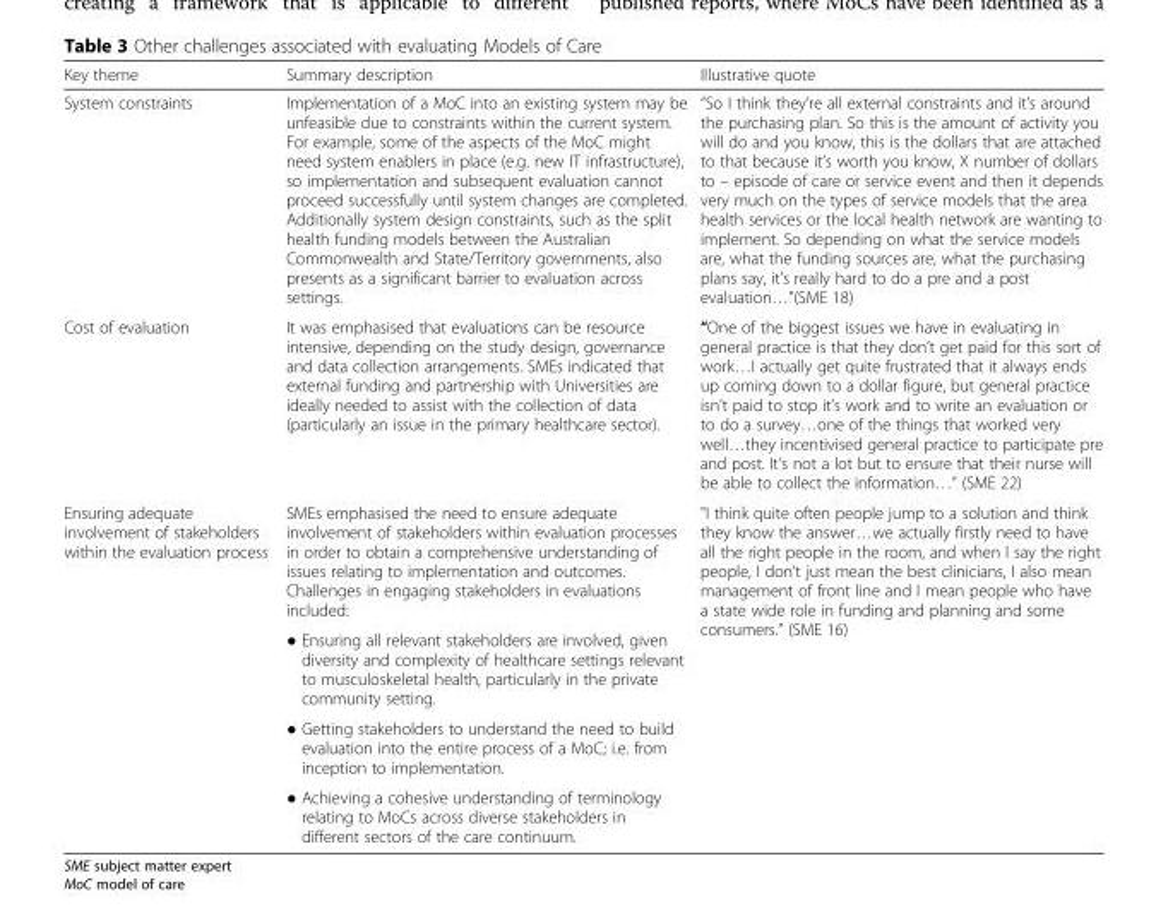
<table><thead><tr><td>Key theme</td><td>Summary description</td><td>Illustrative quote</td></tr></thead><tbody><tr><td>System constraints</td><td>Implementation of a MoC into an existing system may be unfeasible due to constraints within the current system. For example, some of the aspects of the MoC might need system enablers in place (e.g. new IT infrastructure), so implementation and subsequent evaluation cannot proceed successfully until system changes are completed. Additionally system design constraints, such as the split health funding models between the Australian Commonwealth and State/Territory governments, also presents as a significant barrier to evaluation across settings.</td><td>“So I think they’re all external constraints and it’s around the purchasing plan. So this is the amount of activity you will do and you know, this is the dollars that are attached to that because it’s worth you know, X number of dollars to – episode of care or service event and then it depends very much on the types of service models that the area health services or the local health network are wanting to implement. So depending on what the service models are, what the funding sources are, what the purchasing plans say, it’s really hard to do a pre and a post evaluation…”(SME 18)</td></tr><tr><td>Cost of evaluation</td><td>It was emphasised that evaluations can be resource intensive, depending on the study design, governance and data collection arrangements. SMEs indicated that external funding and partnership with Universities are ideally needed to assist with the collection of data (particularly an issue in the primary healthcare sector).</td><td>“One of the biggest issues we have in evaluating in general practice is that they don’t get paid for this sort of work…I actually get quite frustrated that it always ends up coming down to a dollar figure, but general practice isn’t paid to stop it’s work and to write an evaluation or to do a survey…one of the things that worked very well…they incentivised general practice to participate pre and post. It’s not a lot but to ensure that their nurse will be able to collect the information…” (SME 22)</td></tr><tr><td rowspan="4">Ensuring adequate involvement of stakeholders within the evaluation process</td><td>SMEs emphasised the need to ensure adequate involvement of stakeholders within evaluation processes in order to obtain a comprehensive understanding of issues relating to implementation and outcomes. Challenges in engaging stakeholders in evaluations included:</td><td rowspan="4">&quot;I think quite often people jump to a solution and think they know the answer…we actually firstly need to have all the right people in the room, and when I say the right people, I don’t just mean the best clinicians, I also mean management of front line and I mean people who have a state wide role in funding and planning and some consumers.” (SME 16)</td></tr><tr><td>● Ensuring all relevant stakeholders are involved, given diversity and complexity of healthcare settings relevant to musculoskeletal health, particularly in the private community setting.</td></tr><tr><td>● Getting stakeholders to understand the need to build evaluation into the entire process of a MoC; i.e. from inception to implementation.</td></tr><tr><td>● Achieving a cohesive understanding of terminology relating to MoCs across diverse stakeholders in different sectors of the care continuum.</td></tr></tbody></table>